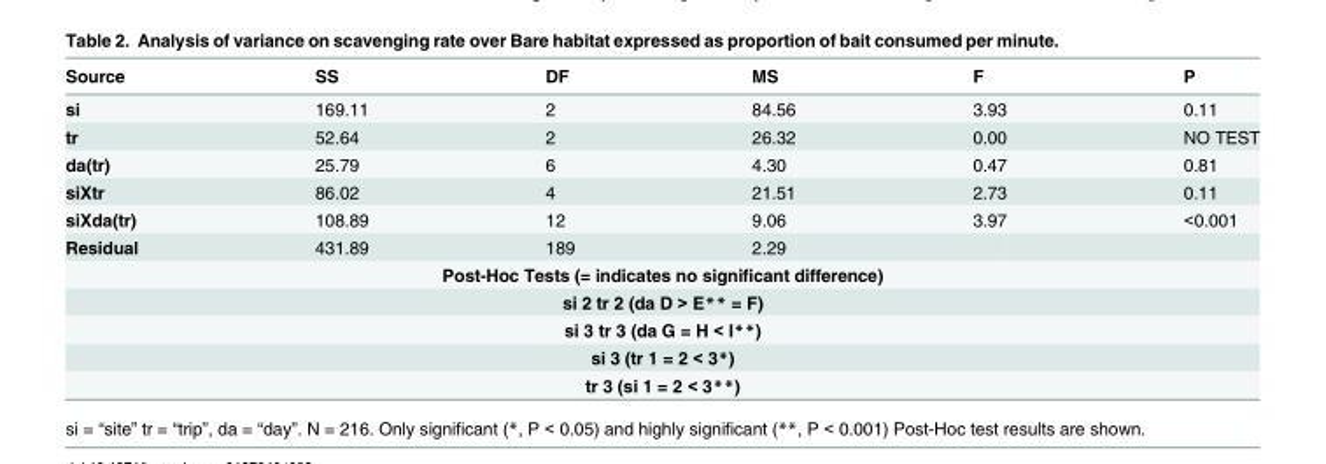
<table><thead><tr><td>Source</td><td>SS</td><td>DF</td><td>MS</td><td>F</td><td>P</td></tr></thead><tbody><tr><td>si</td><td>169.11</td><td>2</td><td>84.56</td><td>3.93</td><td>0.11</td></tr><tr><td>tr</td><td>52.64</td><td>2</td><td>26.32</td><td>0.00</td><td>NO TEST</td></tr><tr><td>da(tr)</td><td>25.79</td><td>6</td><td>4.30</td><td>0.47</td><td>0.81</td></tr><tr><td>siXtr</td><td>86.02</td><td>4</td><td>21.51</td><td>2.73</td><td>0.11</td></tr><tr><td>siXda(tr)</td><td>108.89</td><td>12</td><td>9.06</td><td>3.97</td><td>&lt;0.001</td></tr><tr><td>Residual</td><td>431.89</td><td>189</td><td>2.29</td><td></td><td></td></tr><tr><td colspan="6">Post-Hoc Tests (= indicates no significant difference)</td></tr><tr><td colspan="6">si 2 tr 2 (da D &gt; E** = F)</td></tr><tr><td colspan="6">si 3 tr 3 (da G = H &lt; I**)</td></tr><tr><td colspan="6">si 3 (tr 1 = 2 &lt; 3*)</td></tr><tr><td colspan="6">tr 3 (si 1 = 2 &lt; 3**)</td></tr></tbody></table>